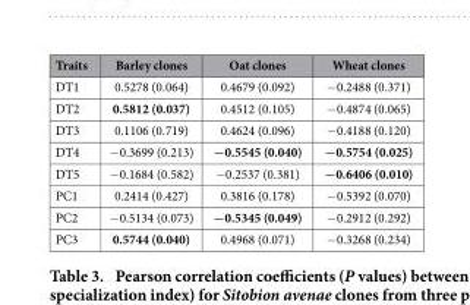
<table><thead><tr><td>Traits</td><td>Barley clones</td><td>Oat clones</td><td>Wheat clones</td></tr></thead><tbody><tr><td>DT1</td><td>0.5278 (0.064)</td><td>0.4679 (0.092)</td><td>− 0.2488 (0.371)</td></tr><tr><td>DT2</td><td>0.5812 (0.037)</td><td>0.4512 (0.105)</td><td>− 0.4874 (0.065)</td></tr><tr><td>DT3</td><td>0.1106 (0.719)</td><td>0.4624 (0.096)</td><td>− 0.4188 (0.120)</td></tr><tr><td>DT4</td><td>− 0.3699 (0.213)</td><td>−0.5545 (0.040)</td><td>−0.5754 (0.025)</td></tr><tr><td>DT5</td><td>− 0.1684 (0.582)</td><td>− 0.2537 (0.381)</td><td>−0.6406 (0.010)</td></tr><tr><td>PC1</td><td>0.2414 (0.427)</td><td>0.3816 (0.178)</td><td>− 0.5392 (0.070)</td></tr><tr><td>PC2</td><td>− 0.5134 (0.073)</td><td>−0.5345 (0.049)</td><td>− 0.2912 (0.292)</td></tr><tr><td>PC3</td><td>0.5744 (0.040)</td><td>0.4968 (0.071)</td><td>− 0.3268 (0.234)</td></tr></tbody></table>